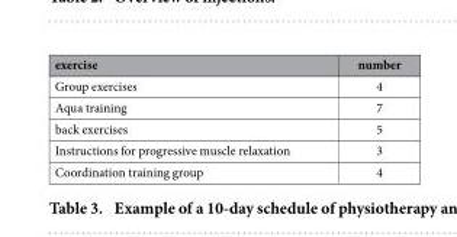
<table><thead><tr><td>exercise</td><td>number</td></tr></thead><tbody><tr><td>Group exercises</td><td>4</td></tr><tr><td>Aqua training</td><td>7</td></tr><tr><td>back exercises</td><td>5</td></tr><tr><td>Instructions for progressive muscle relaxation</td><td>3</td></tr><tr><td>Coordination training group</td><td>4</td></tr></tbody></table>